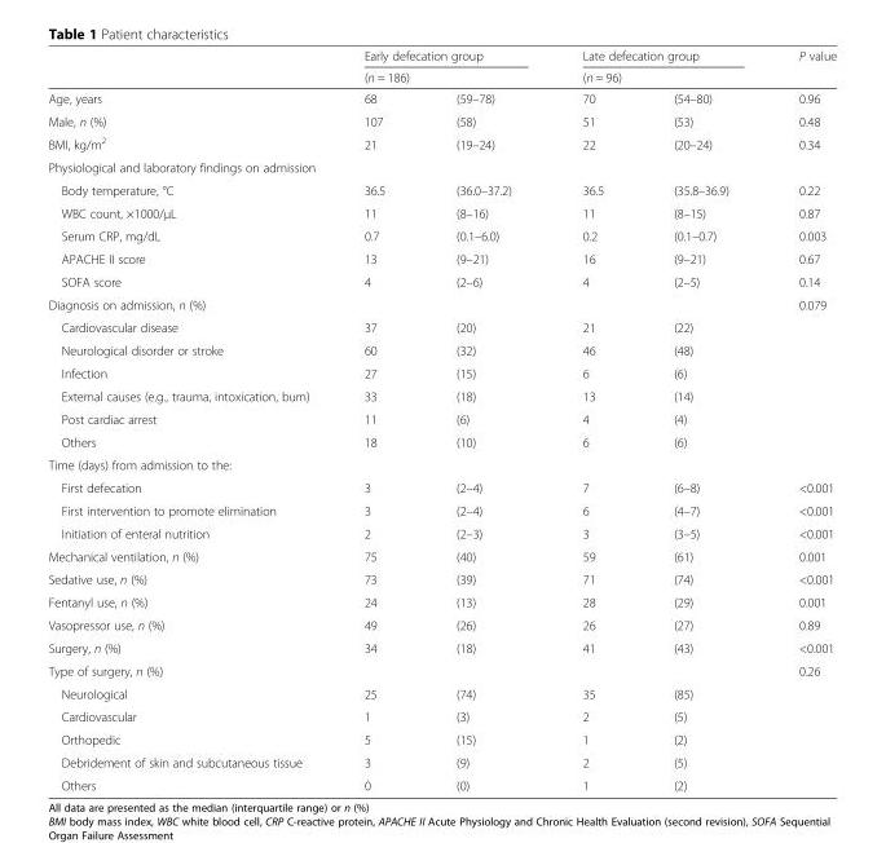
<table><thead><tr><td rowspan="3">Age, years</td><td rowspan="2" colspan="2">Early defecation group (n = 186)</td><td rowspan="2" colspan="2">Late defecation group (n = 96)</td><td rowspan="3">P value 0.96</td></tr><tr></tr><tr><td>68</td><td>(59–78)</td><td>70</td><td>(54–80)</td></tr></thead><tbody><tr><td>Male, n (%)</td><td>107</td><td>(58)</td><td>51</td><td>(53)</td><td>0.48</td></tr><tr><td>BMI, kg/m<sup>2</sup></td><td>21</td><td>(19–24)</td><td>22</td><td>(20–24)</td><td>0.34</td></tr><tr><td colspan="6">Physiological and laboratory findings on admission</td></tr><tr><td>Body temperature, °C</td><td>36.5</td><td>(36.0–37.2)</td><td>36.5</td><td>(35.8–36.9)</td><td>0.22</td></tr><tr><td>WBC count, ×1000/μL</td><td>11</td><td>(8–16)</td><td>11</td><td>(8–15)</td><td>0.87</td></tr><tr><td>Serum CRP, mg/dL</td><td>0.7</td><td>(0.1–6.0)</td><td>0.2</td><td>(0.1–0.7)</td><td>0.003</td></tr><tr><td>APACHE II score</td><td>13</td><td>(9–21)</td><td>16</td><td>(9–21)</td><td>0.67</td></tr><tr><td>SOFA score</td><td>4</td><td>(2–6)</td><td>4</td><td>(2–5)</td><td>0.14</td></tr><tr><td>Diagnosis on admission, n (%)</td><td></td><td></td><td></td><td></td><td>0.079</td></tr><tr><td>Cardiovascular disease</td><td>37</td><td>(20)</td><td>21</td><td>(22)</td><td></td></tr><tr><td>Neurological disorder or stroke</td><td>60</td><td>(32)</td><td>46</td><td>(48)</td><td></td></tr><tr><td>Infection</td><td>27</td><td>(15)</td><td>6</td><td>(6)</td><td></td></tr><tr><td>External causes (e.g., trauma, intoxication, burn)</td><td>33</td><td>(18)</td><td>13</td><td>(14)</td><td></td></tr><tr><td>Post cardiac arrest</td><td>11</td><td>(6)</td><td>4</td><td>(4)</td><td></td></tr><tr><td>Others</td><td>18</td><td>(10)</td><td>6</td><td>(6)</td><td></td></tr><tr><td colspan="6">Time (days) from admission to the:</td></tr><tr><td>First defecation</td><td>3</td><td>(2–4)</td><td>7</td><td>(6–8)</td><td>&lt;0.001</td></tr><tr><td>First intervention to promote elimination</td><td>3</td><td>(2–4)</td><td>6</td><td>(4–7)</td><td>&lt;0.001</td></tr><tr><td>Initiation of enteral nutrition</td><td>2</td><td>(2–3)</td><td>3</td><td>(3–5)</td><td>&lt;0.001</td></tr><tr><td>Mechanical ventilation, n (%)</td><td>75</td><td>(40)</td><td>59</td><td>(61)</td><td>0.001</td></tr><tr><td>Sedative use, n (%)</td><td>73</td><td>(39)</td><td>71</td><td>(74)</td><td>&lt;0.001</td></tr><tr><td>Fentanyl use, n (%)</td><td>24</td><td>(13)</td><td>28</td><td>(29)</td><td>0.001</td></tr><tr><td>Vasopressor use, n (%)</td><td>49</td><td>(26)</td><td>26</td><td>(27)</td><td>0.89</td></tr><tr><td>Surgery, n (%)</td><td>34</td><td>(18)</td><td>41</td><td>(43)</td><td>&lt;0.001</td></tr><tr><td>Type of surgery, n (%)</td><td></td><td></td><td></td><td></td><td>0.26</td></tr><tr><td>Neurological</td><td>25</td><td>(74)</td><td>35</td><td>(85)</td><td></td></tr><tr><td>Cardiovascular</td><td>1</td><td>(3)</td><td>2</td><td>(5)</td><td></td></tr><tr><td>Orthopedic</td><td>5</td><td>(15)</td><td>1</td><td>(2)</td><td></td></tr><tr><td>Debridement of skin and subcutaneous tissue</td><td>3</td><td>(9)</td><td>2</td><td>(5)</td><td></td></tr><tr><td>Others</td><td>0</td><td>(0)</td><td>1</td><td>(2)</td><td></td></tr></tbody></table>